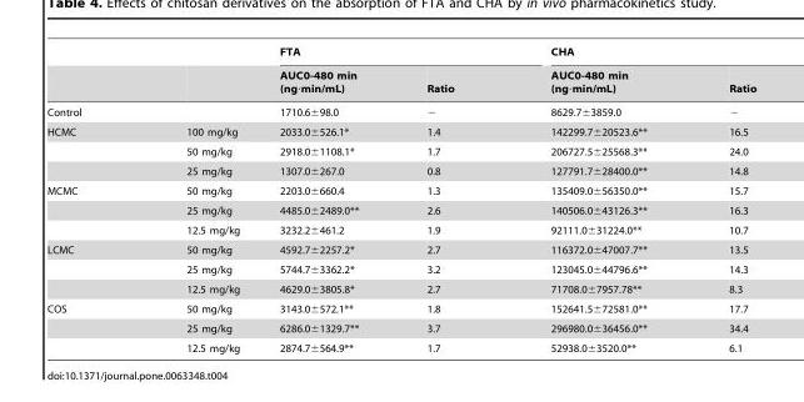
<table><thead><tr><td rowspan="2"></td><td rowspan="2"></td><td colspan="2">FTA</td><td colspan="2">CHA</td></tr><tr><td>AUC0-480 min (ng⋅min/mL)</td><td>Ratio</td><td>AUC0-480 min (ng⋅min/mL)</td><td>Ratio</td></tr></thead><tbody><tr><td>Control</td><td></td><td>1710.6±98.0</td><td>−</td><td>8629.7±3859.0</td><td>−</td></tr><tr><td rowspan="3">HCMC</td><td>100 mg/kg</td><td>2033.0±526.1*</td><td>1.4</td><td>142299.7±20523.6**</td><td>16.5</td></tr><tr><td>50 mg/kg</td><td>2918.0±1108.1*</td><td>1.7</td><td>206727.5±25568.3**</td><td>24.0</td></tr><tr><td>25 mg/kg</td><td>1307.0±267.0</td><td>0.8</td><td>127791.7±28400.0**</td><td>14.8</td></tr><tr><td rowspan="3">MCMC</td><td>50 mg/kg</td><td>2203.0±660.4</td><td>1.3</td><td>135409.0±56350.0**</td><td>15.7</td></tr><tr><td>25 mg/kg</td><td>4485.0±2489.0**</td><td>2.6</td><td>140506.0±43126.3**</td><td>16.3</td></tr><tr><td>12.5 mg/kg</td><td>3232.2±461.2</td><td>1.9</td><td>92111.0±31224.0**</td><td>10.7</td></tr><tr><td rowspan="3">LCMC</td><td>50 mg/kg</td><td>4592.7±2257.2*</td><td>2.7</td><td>116372.0±47007.7**</td><td>13.5</td></tr><tr><td>25 mg/kg</td><td>5744.7±3362.2*</td><td>3.2</td><td>123045.0±44796.6**</td><td>14.3</td></tr><tr><td>12.5 mg/kg</td><td>4629.0±3805.8*</td><td>2.7</td><td>71708.0±7957.78**</td><td>8.3</td></tr><tr><td rowspan="3">COS</td><td>50 mg/kg</td><td>3143.0±572.1**</td><td>1.8</td><td>152641.5±72581.0**</td><td>17.7</td></tr><tr><td>25 mg/kg</td><td>6286.0±1329.7**</td><td>3.7</td><td>296980.0±36456.0**</td><td>34.4</td></tr><tr><td>12.5 mg/kg</td><td>2874.7±564.9**</td><td>1.7</td><td>52938.0±3520.0**</td><td>6.1</td></tr></tbody></table>